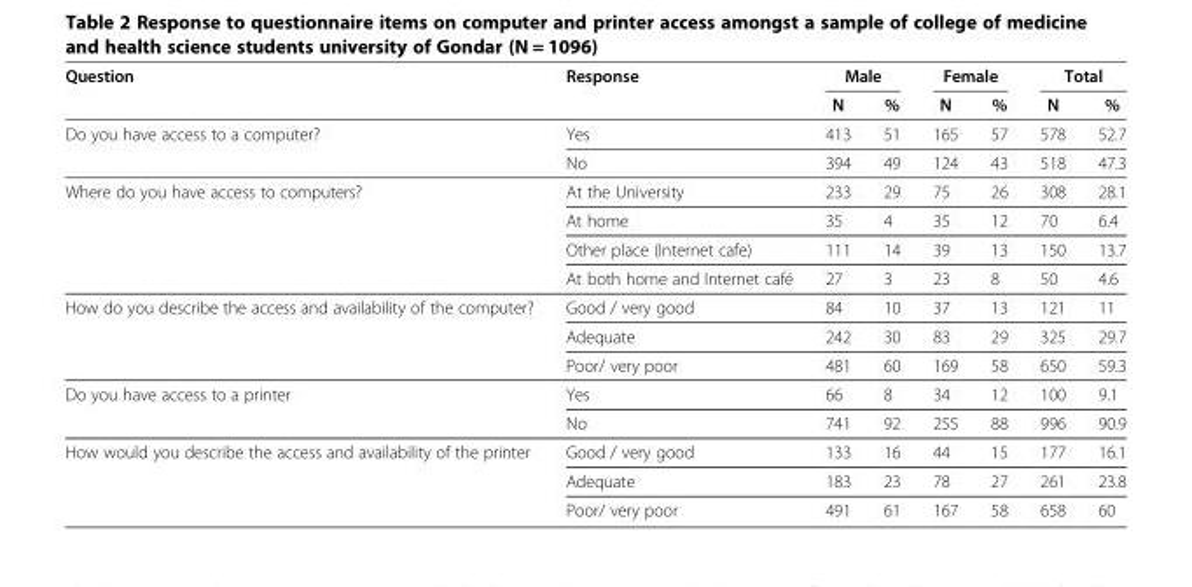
<table><thead><tr><td rowspan="2">Question</td><td rowspan="2">Response</td><td colspan="2">Male</td><td colspan="2">Female</td><td colspan="2">Total</td></tr><tr><td>N</td><td>%</td><td>N</td><td>%</td><td>N</td><td>%</td></tr></thead><tbody><tr><td rowspan="2">Do you have access to a computer?</td><td>Yes</td><td>413</td><td>51</td><td>165</td><td>57</td><td>578</td><td>52.7</td></tr><tr><td>No</td><td>394</td><td>49</td><td>124</td><td>43</td><td>518</td><td>47.3</td></tr><tr><td rowspan="4">Where do you have access to computers?</td><td>At the University</td><td>233</td><td>29</td><td>75</td><td>26</td><td>308</td><td>28.1</td></tr><tr><td>At home</td><td>35</td><td>4</td><td>35</td><td>12</td><td>70</td><td>6.4</td></tr><tr><td>Other place (Internet cafe)</td><td>111</td><td>14</td><td>39</td><td>13</td><td>150</td><td>13.7</td></tr><tr><td>At both home and Internet café</td><td>27</td><td>3</td><td>23</td><td>8</td><td>50</td><td>4.6</td></tr><tr><td rowspan="3">How do you describe the access and availability of the computer?</td><td>Good / very good</td><td>84</td><td>10</td><td>37</td><td>13</td><td>121</td><td>11</td></tr><tr><td>Adequate</td><td>242</td><td>30</td><td>83</td><td>29</td><td>325</td><td>29.7</td></tr><tr><td>Poor/ very poor</td><td>481</td><td>60</td><td>169</td><td>58</td><td>650</td><td>59.3</td></tr><tr><td rowspan="2">Do you have access to a printer</td><td>Yes</td><td>66</td><td>8</td><td>34</td><td>12</td><td>100</td><td>9.1</td></tr><tr><td>No</td><td>741</td><td>92</td><td>255</td><td>88</td><td>996</td><td>90.9</td></tr><tr><td rowspan="3">How would you describe the access and availability of the printer</td><td>Good / very good</td><td>133</td><td>16</td><td>44</td><td>15</td><td>177</td><td>16.1</td></tr><tr><td>Adequate</td><td>183</td><td>23</td><td>78</td><td>27</td><td>261</td><td>23.8</td></tr><tr><td>Poor/ very poor</td><td>491</td><td>61</td><td>167</td><td>58</td><td>658</td><td>60</td></tr></tbody></table>